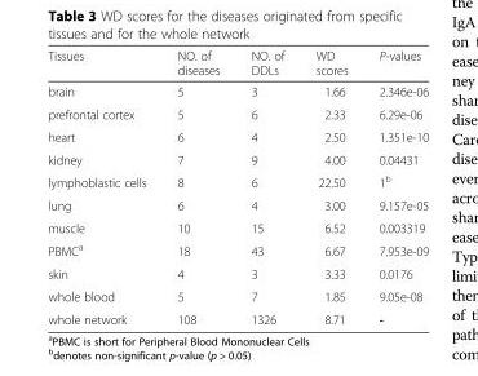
<table><thead><tr><td>Tissues</td><td>NO. of diseases</td><td>NO. of DDLs</td><td>WD scores</td><td>P-values</td></tr></thead><tbody><tr><td>brain</td><td>5</td><td>3</td><td>1.66</td><td>2.346e-06</td></tr><tr><td>prefrontal cortex</td><td>5</td><td>6</td><td>2.33</td><td>6.29e-06</td></tr><tr><td>heart</td><td>6</td><td>4</td><td>2.50</td><td>1.351e-10</td></tr><tr><td>kidney</td><td>7</td><td>9</td><td>4.00</td><td>0.04431</td></tr><tr><td>lymphoblastic cells</td><td>8</td><td>6</td><td>22.50</td><td>1<sup>b</sup></td></tr><tr><td>lung</td><td>6</td><td>4</td><td>3.00</td><td>9.157e-05</td></tr><tr><td>muscle</td><td>10</td><td>15</td><td>6.52</td><td>0.003319</td></tr><tr><td>PBMC<sup>a</sup></td><td>18</td><td>43</td><td>6.67</td><td>7.953e-09</td></tr><tr><td>skin</td><td>4</td><td>3</td><td>3.33</td><td>0.0176</td></tr><tr><td>whole blood</td><td>5</td><td>7</td><td>1.85</td><td>9.05e-08</td></tr><tr><td>whole network</td><td>108</td><td>1326</td><td>8.71</td><td>-</td></tr></tbody></table>